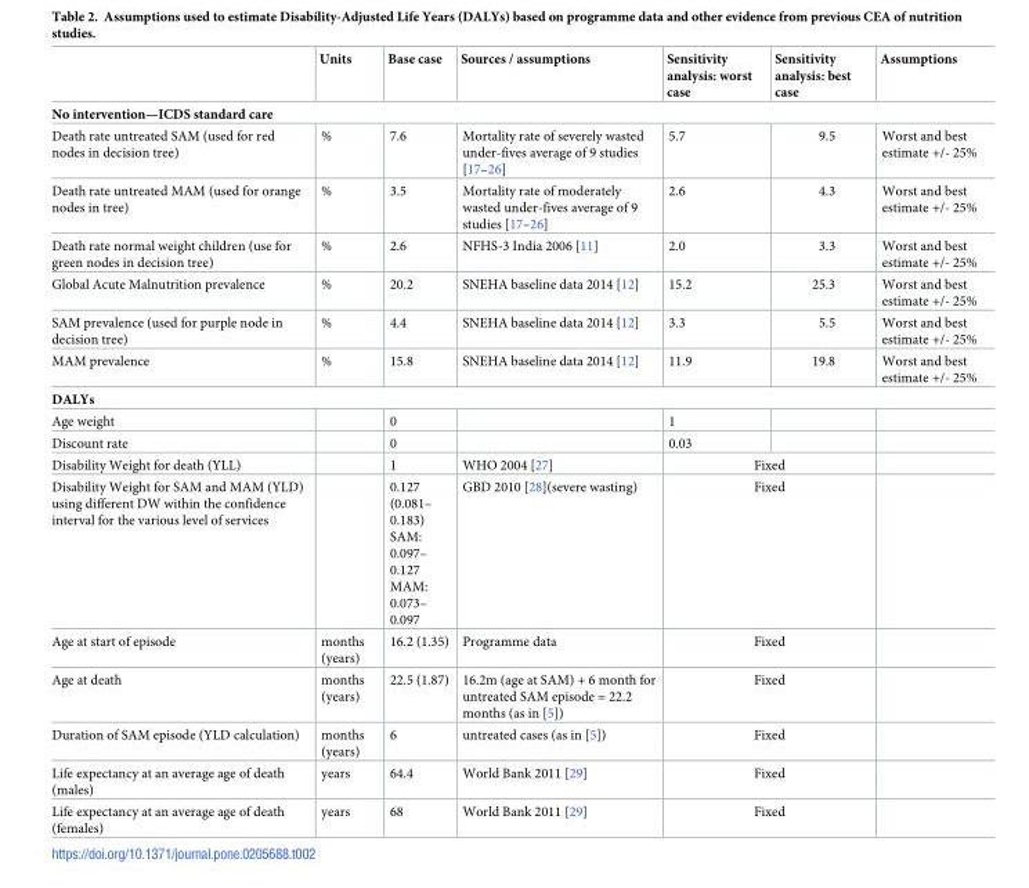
<table><thead><tr><td></td><td>Units</td><td>Base case</td><td>Sources / assumptions</td><td>Sensitivity analysis: worst case</td><td>Sensitivity analysis: best case</td><td>Assumptions</td></tr></thead><tbody><tr><td colspan="7">No intervention—ICDS standard care</td></tr><tr><td>Death rate untreated SAM (used for red nodes in decision tree)</td><td>%</td><td>7.6</td><td>Mortality rate of severely wasted under-fives average of 9 studies [17–26]</td><td>5.7</td><td>9.5</td><td>Worst and best estimate +/- 25%</td></tr><tr><td>Death rate untreated MAM (used for orange nodes in tree)</td><td>%</td><td>3.5</td><td>Mortality rate of moderately wasted under-fives average of 9 studies [17–26]</td><td>2.6</td><td>4.3</td><td>Worst and best estimate +/- 25%</td></tr><tr><td>Death rate normal weight children (use for green nodes in decision tree)</td><td>%</td><td>2.6</td><td>NFHS-3 India 2006 [11]</td><td>2.0</td><td>3.3</td><td>Worst and best estimate +/- 25%</td></tr><tr><td>Global Acute Malnutrition prevalence</td><td>%</td><td>20.2</td><td>SNEHA baseline data 2014 [12]</td><td>15.2</td><td>25.3</td><td>Worst and best estimate +/- 25%</td></tr><tr><td>SAM prevalence (used for purple node in decision tree)</td><td>%</td><td>4.4</td><td>SNEHA baseline data 2014 [12]</td><td>3.3</td><td>5.5</td><td>Worst and best estimate +/- 25%</td></tr><tr><td>MAM prevalence</td><td>%</td><td>15.8</td><td>SNEHA baseline data 2014 [12]</td><td>11.9</td><td>19.8</td><td>Worst and best estimate +/- 25%</td></tr><tr><td colspan="7">DALYs</td></tr><tr><td>Age weight</td><td></td><td>0</td><td></td><td>1</td><td></td><td></td></tr><tr><td>Discount rate</td><td></td><td>0</td><td></td><td>0.03</td><td></td><td></td></tr><tr><td>Disability Weight for death (YLL)</td><td></td><td>1</td><td>WHO 2004 [27]</td><td colspan="2">Fixed</td><td></td></tr><tr><td>Disability Weight for SAM and MAM (YLD) using different DW within the confidence interval for the various level of services</td><td></td><td>0.127 (0.081– 0.183) SAM: 0.097– 0.127 MAM: 0.073– 0.097</td><td>GBD 2010 [28](severe wasting)</td><td colspan="2">Fixed</td><td></td></tr><tr><td>Age at start of episode</td><td>months (years)</td><td>16.2 (1.35)</td><td>Programme data</td><td colspan="2">Fixed</td><td></td></tr><tr><td>Age at death</td><td>months (years)</td><td>22.5 (1.87)</td><td>16.2m (age at SAM) + 6 month for untreated SAM episode = 22.2 months (as in [5])</td><td colspan="2">Fixed</td><td></td></tr><tr><td>Duration of SAM episode (YLD calculation)</td><td>months (years)</td><td>6</td><td>untreated cases (as in [5])</td><td colspan="2">Fixed</td><td></td></tr><tr><td>Life expectancy at an average age of death (males)</td><td>years</td><td>64.4</td><td>World Bank 2011 [29]</td><td colspan="2">Fixed</td><td></td></tr><tr><td>Life expectancy at an average age of death (females)</td><td>years</td><td>68</td><td>World Bank 2011 [29]</td><td colspan="2">Fixed</td><td></td></tr></tbody></table>